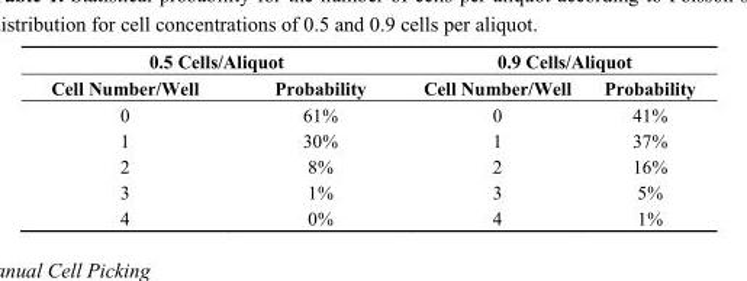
<table><thead><tr><td colspan="2">0.5 Cells/Aliquot</td><td colspan="2">0.9 Cells/Aliquot</td></tr><tr><td>Cell Number/Well</td><td>Probability</td><td>Cell Number/Well</td><td>Probability</td></tr></thead><tbody><tr><td>0</td><td>61%</td><td>0</td><td>41%</td></tr><tr><td>1</td><td>30%</td><td>1</td><td>37%</td></tr><tr><td>2</td><td>8%</td><td>2</td><td>16%</td></tr><tr><td>3</td><td>1%</td><td>3</td><td>5%</td></tr><tr><td>4</td><td>0%</td><td>4</td><td>1%</td></tr></tbody></table>